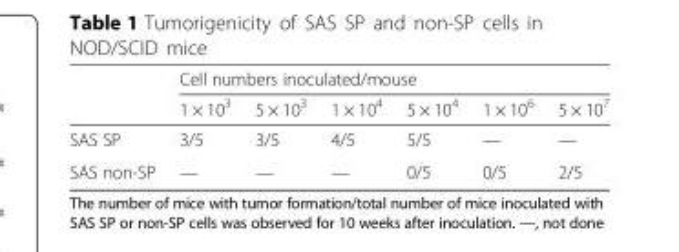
<table><thead><tr><td rowspan="2"></td><td colspan="6">Cell numbers inoculated/mouse</td></tr><tr><td>1 × 10<sup>3</sup></td><td>5 × 10<sup>3</sup></td><td>1 × 10<sup>4</sup></td><td>5 × 10<sup>4</sup></td><td>1 × 10<sup>6</sup></td><td>5 × 10<sup>7</sup></td></tr></thead><tbody><tr><td>SAS SP</td><td>3/5</td><td>3/5</td><td>4/5</td><td>5/5</td><td>—</td><td>—</td></tr><tr><td>SAS non-SP</td><td>—</td><td>—</td><td>—</td><td>0/5</td><td>0/5</td><td>2/5</td></tr></tbody></table>